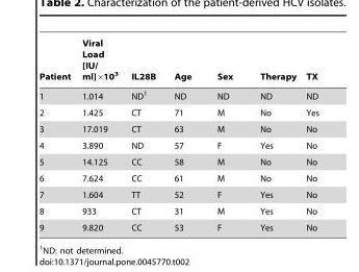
<table><thead><tr><td>Patient</td><td>Viral Load [IU/ ml]×10<sup>3</sup></td><td>IL28B</td><td>Age</td><td>Sex</td><td>Therapy</td><td>TX</td></tr></thead><tbody><tr><td>1</td><td>1.014</td><td>ND<sup>1</sup></td><td>ND</td><td>ND</td><td>ND</td><td>ND</td></tr><tr><td>2</td><td>1.425</td><td>CT</td><td>71</td><td>M</td><td>No</td><td>Yes</td></tr><tr><td>3</td><td>17.019</td><td>CT</td><td>63</td><td>M</td><td>No</td><td>No</td></tr><tr><td>4</td><td>3.890</td><td>ND</td><td>57</td><td>F</td><td>Yes</td><td>No</td></tr><tr><td>5</td><td>14.125</td><td>CC</td><td>58</td><td>M</td><td>No</td><td>No</td></tr><tr><td>6</td><td>7.624</td><td>CC</td><td>61</td><td>M</td><td>No</td><td>No</td></tr><tr><td>7</td><td>1.604</td><td>TT</td><td>52</td><td>F</td><td>Yes</td><td>No</td></tr><tr><td>8</td><td>933</td><td>CT</td><td>31</td><td>M</td><td>Yes</td><td>No</td></tr><tr><td>9</td><td>9.820</td><td>CC</td><td>53</td><td>F</td><td>Yes</td><td>No</td></tr></tbody></table>